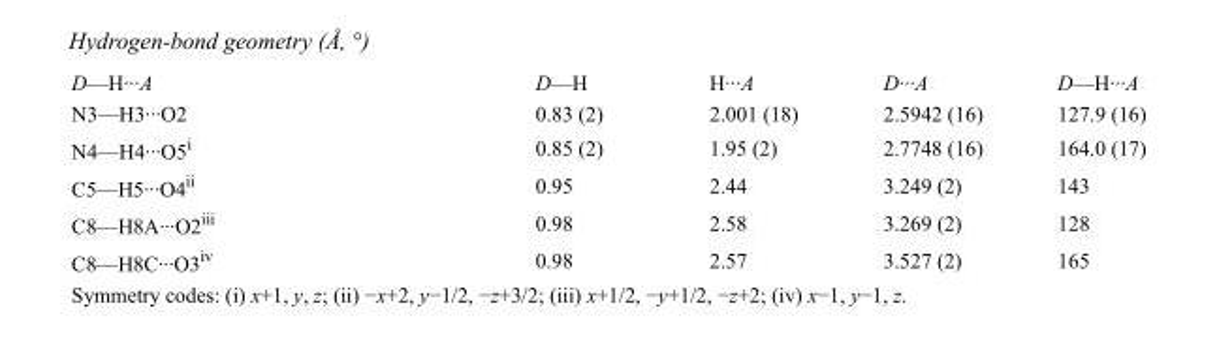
<table><tbody><tr><td>D—H···A</td><td>D—H</td><td>H···A</td><td>D···A</td><td>D—H···A</td></tr><tr><td>N3—H3···O2</td><td>0.83 (2)</td><td>2.001 (18)</td><td>2.5942 (16)</td><td>127.9 (16)</td></tr><tr><td>N4—H4···O5<sup>i</sup></td><td>0.85 (2)</td><td>1.95 (2)</td><td>2.7748 (16)</td><td>164.0 (17)</td></tr><tr><td>C5—H5···O4<sup>ii</sup></td><td>0.95</td><td>2.44</td><td>3.249 (2)</td><td>143</td></tr><tr><td>C8—H8A···O2<sup>iii</sup></td><td>0.98</td><td>2.58</td><td>3.269 (2)</td><td>128</td></tr><tr><td>C8—H8C···O3<sup>iv</sup></td><td>0.98</td><td>2.57</td><td>3.527 (2)</td><td>165</td></tr></tbody></table>